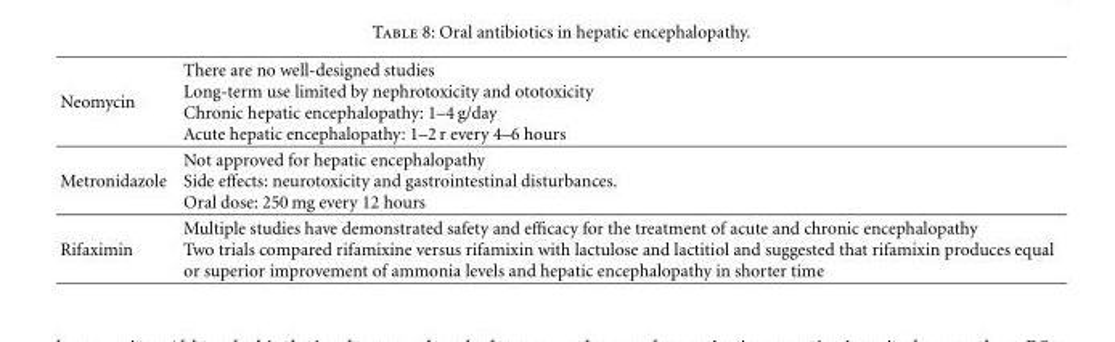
<table><tbody><tr><td>Neomycin</td><td>There are no well-designed studies Long-term use limited by nephrotoxicity and ototoxicity Chronic hepatic encephalopathy: 1–4 g/day Acute hepatic encephalopathy: 1–2 r every 4–6 hours</td></tr><tr><td>Metronidazole</td><td>Not approved for hepatic encephalopathy Side effects: neurotoxicity and gastrointestinal disturbances. Oral dose: 250 mg every 12 hours</td></tr><tr><td>Rifaximin</td><td>Multiple studies have demonstrated safety and efficacy for the treatment of acute and chronic encephalopathy Two trials compared rifamixine versus rifamixin with lactulose and lactitiol and suggested that rifamixin produces equal or superior improvement of ammonia levels and hepatic encephalopathy in shorter time</td></tr></tbody></table>